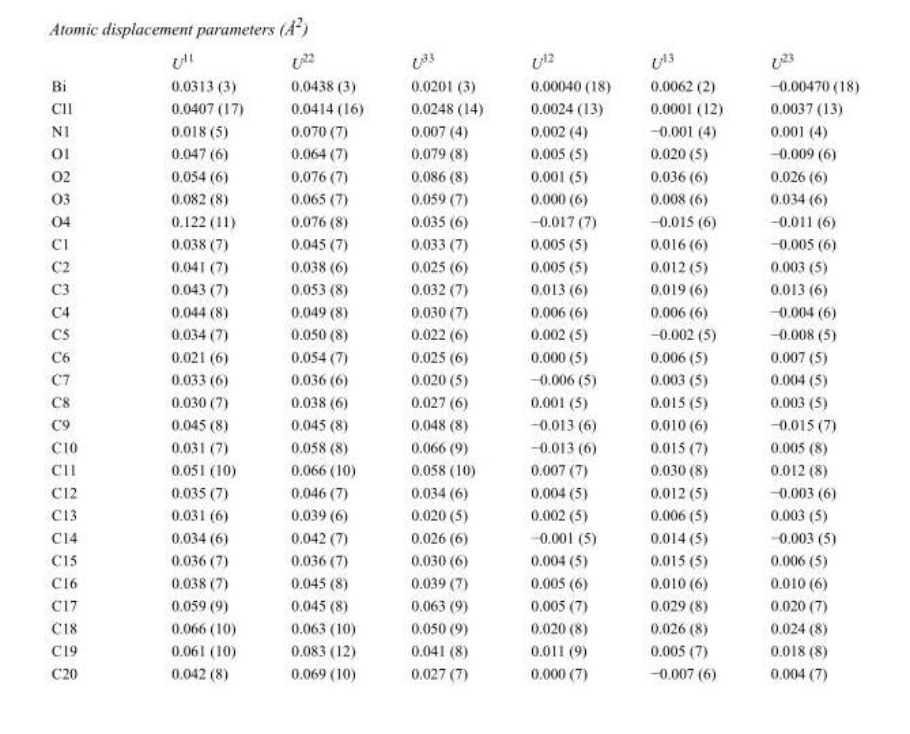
<table><thead><tr><td></td><td>U<sup>11</sup></td><td>U<sup>22</sup></td><td>U<sup>33</sup></td><td>U<sup>12</sup></td><td>U<sup>13</sup></td><td>U<sup>23</sup></td></tr></thead><tbody><tr><td>Bi</td><td>0.0313 (3)</td><td>0.0438 (3)</td><td>0.0201 (3)</td><td>0.00040 (18)</td><td>0.0062 (2)</td><td>−0.00470 (18)</td></tr><tr><td>Cl1</td><td>0.0407 (17)</td><td>0.0414 (16)</td><td>0.0248 (14)</td><td>0.0024 (13)</td><td>0.0001 (12)</td><td>0.0037 (13)</td></tr><tr><td>N1</td><td>0.018 (5)</td><td>0.070 (7)</td><td>0.007 (4)</td><td>0.002 (4)</td><td>−0.001 (4)</td><td>0.001 (4)</td></tr><tr><td>O1</td><td>0.047 (6)</td><td>0.064 (7)</td><td>0.079 (8)</td><td>0.005 (5)</td><td>0.020 (5)</td><td>−0.009 (6)</td></tr><tr><td>O2</td><td>0.054 (6)</td><td>0.076 (7)</td><td>0.086 (8)</td><td>0.001 (5)</td><td>0.036 (6)</td><td>0.026 (6)</td></tr><tr><td>O3</td><td>0.082 (8)</td><td>0.065 (7)</td><td>0.059 (7)</td><td>0.000 (6)</td><td>0.008 (6)</td><td>0.034 (6)</td></tr><tr><td>O4</td><td>0.122 (11)</td><td>0.076 (8)</td><td>0.035 (6)</td><td>−0.017 (7)</td><td>−0.015 (6)</td><td>−0.011 (6)</td></tr><tr><td>C1</td><td>0.038 (7)</td><td>0.045 (7)</td><td>0.033 (7)</td><td>0.005 (5)</td><td>0.016 (6)</td><td>−0.005 (6)</td></tr><tr><td>C2</td><td>0.041 (7)</td><td>0.038 (6)</td><td>0.025 (6)</td><td>0.005 (5)</td><td>0.012 (5)</td><td>0.003 (5)</td></tr><tr><td>C3</td><td>0.043 (7)</td><td>0.053 (8)</td><td>0.032 (7)</td><td>0.013 (6)</td><td>0.019 (6)</td><td>0.013 (6)</td></tr><tr><td>C4</td><td>0.044 (8)</td><td>0.049 (8)</td><td>0.030 (7)</td><td>0.006 (6)</td><td>0.006 (6)</td><td>−0.004 (6)</td></tr><tr><td>C5</td><td>0.034 (7)</td><td>0.050 (8)</td><td>0.022 (6)</td><td>0.002 (5)</td><td>−0.002 (5)</td><td>−0.008 (5)</td></tr><tr><td>C6</td><td>0.021 (6)</td><td>0.054 (7)</td><td>0.025 (6)</td><td>0.000 (5)</td><td>0.006 (5)</td><td>0.007 (5)</td></tr><tr><td>C7</td><td>0.033 (6)</td><td>0.036 (6)</td><td>0.020 (5)</td><td>−0.006 (5)</td><td>0.003 (5)</td><td>0.004 (5)</td></tr><tr><td>C8</td><td>0.030 (7)</td><td>0.038 (6)</td><td>0.027 (6)</td><td>0.001 (5)</td><td>0.015 (5)</td><td>0.003 (5)</td></tr><tr><td>C9</td><td>0.045 (8)</td><td>0.045 (8)</td><td>0.048 (8)</td><td>−0.013 (6)</td><td>0.010 (6)</td><td>−0.015 (7)</td></tr><tr><td>C10</td><td>0.031 (7)</td><td>0.058 (8)</td><td>0.066 (9)</td><td>−0.013 (6)</td><td>0.015 (7)</td><td>0.005 (8)</td></tr><tr><td>C11</td><td>0.051 (10)</td><td>0.066 (10)</td><td>0.058 (10)</td><td>0.007 (7)</td><td>0.030 (8)</td><td>0.012 (8)</td></tr><tr><td>C12</td><td>0.035 (7)</td><td>0.046 (7)</td><td>0.034 (6)</td><td>0.004 (5)</td><td>0.012 (5)</td><td>−0.003 (6)</td></tr><tr><td>C13</td><td>0.031 (6)</td><td>0.039 (6)</td><td>0.020 (5)</td><td>0.002 (5)</td><td>0.006 (5)</td><td>0.003 (5)</td></tr><tr><td>C14</td><td>0.034 (6)</td><td>0.042 (7)</td><td>0.026 (6)</td><td>−0.001 (5)</td><td>0.014 (5)</td><td>−0.003 (5)</td></tr><tr><td>C15</td><td>0.036 (7)</td><td>0.036 (7)</td><td>0.030 (6)</td><td>0.004 (5)</td><td>0.015 (5)</td><td>0.006 (5)</td></tr><tr><td>C16</td><td>0.038 (7)</td><td>0.045 (8)</td><td>0.039 (7)</td><td>0.005 (6)</td><td>0.010 (6)</td><td>0.010 (6)</td></tr><tr><td>C17</td><td>0.059 (9)</td><td>0.045 (8)</td><td>0.063 (9)</td><td>0.005 (7)</td><td>0.029 (8)</td><td>0.020 (7)</td></tr><tr><td>C18</td><td>0.066 (10)</td><td>0.063 (10)</td><td>0.050 (9)</td><td>0.020 (8)</td><td>0.026 (8)</td><td>0.024 (8)</td></tr><tr><td>C19</td><td>0.061 (10)</td><td>0.083 (12)</td><td>0.041 (8)</td><td>0.011 (9)</td><td>0.005 (7)</td><td>0.018 (8)</td></tr><tr><td>C20</td><td>0.042 (8)</td><td>0.069 (10)</td><td>0.027 (7)</td><td>0.000 (7)</td><td>−0.007 (6)</td><td>0.004 (7)</td></tr></tbody></table>